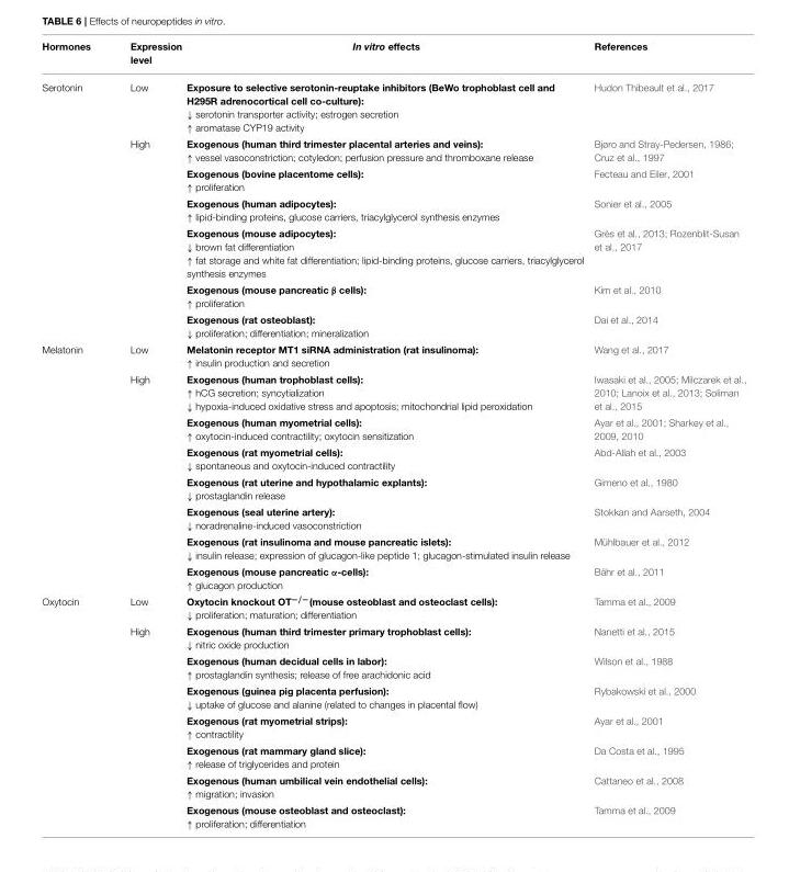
<table><thead><tr><td>Hormones</td><td>Expression level</td><td>In vitro effects</td><td>References</td></tr></thead><tbody><tr><td rowspan="7">Serotonin</td><td>Low</td><td>Exposure to selective serotonin-reuptake inhibitors (BeWo trophoblast cell and H295R adrenocortical cell co-culture): ↓ serotonin transporter activity; estrogen secretion ↑ aromatase CYP19 activity</td><td>Hudon Thibeault et al., 2017</td></tr><tr><td>High</td><td>Exogenous (human third trimester placental arteries and veins): ↑ vessel vasoconstriction; cotyledon; perfusion pressure and thromboxane release</td><td>Bjøro and Stray-Pedersen, 1986; Cruz et al., 1997</td></tr><tr><td></td><td>Exogenous (bovine placentome cells): ↑ proliferation</td><td>Fecteau and Eiler, 2001</td></tr><tr><td></td><td>Exogenous (human adipocytes): ↑ lipid-binding proteins, glucose carriers, triacylglycerol synthesis enzymes</td><td>Sonier et al., 2005</td></tr><tr><td></td><td>Exogenous (mouse adipocytes): ↓ brown fat differentiation ↑ fat storage and white fat differentiation; lipid-binding proteins, glucose carriers, triacylglycerol synthesis enzymes</td><td>Grès et al., 2013; Rozenblit-Susan et al., 2017</td></tr><tr><td></td><td>Exogenous (mouse pancreatic β cells): ↑ proliferation</td><td>Kim et al., 2010</td></tr><tr><td></td><td>Exogenous (rat osteoblast): ↓ proliferation; differentiation; mineralization</td><td>Dai et al., 2014</td></tr><tr><td rowspan="8">Melatonin</td><td>Low</td><td>Melatonin receptor MT1 siRNA administration (rat insulinoma): ↑ insulin production and secretion</td><td>Wang et al., 2017</td></tr><tr><td>High</td><td>Exogenous (human trophoblast cells): ↑ hCG secretion; syncytialization ↓ hypoxia-induced oxidative stress and apoptosis; mitochondrial lipid peroxidation</td><td>Iwasaki et al., 2005; Milczarek et al., 2010; Lanoix et al., 2013; Soliman et al., 2015</td></tr><tr><td></td><td>Exogenous (human myometrial cells): ↑ oxytocin-induced contractility; oxytocin sensitization</td><td>Ayar et al., 2001; Sharkey et al., 2009, 2010</td></tr><tr><td></td><td>Exogenous (rat myometrial cells): ↓ spontaneous and oxytocin-induced contractility</td><td>Abd-Allah et al., 2003</td></tr><tr><td></td><td>Exogenous (rat uterine and hypothalamic explants): ↓ prostaglandin release</td><td>Gimeno et al., 1980</td></tr><tr><td></td><td>Exogenous (seal uterine artery): ↓ noradrenaline-induced vasoconstriction</td><td>Stokkan and Aarseth, 2004</td></tr><tr><td></td><td>Exogenous (rat insulinoma and mouse pancreatic islets): ↓ insulin release; expression of glucagon-like peptide 1; glucagon-stimulated insulin release</td><td>Mühlbauer et al., 2012</td></tr><tr><td></td><td>Exogenous (mouse pancreatic α-cells): ↑ glucagon production</td><td>Bähr et al., 2011</td></tr><tr><td rowspan="8">Oxytocin</td><td>Low</td><td>Oxytocin knockout OT<sup>−/−</sup>(mouse osteoblast and osteoclast cells): ↓ proliferation; maturation; differentiation</td><td>Tamma et al., 2009</td></tr><tr><td>High</td><td>Exogenous (human third trimester primary trophoblast cells): ↓ nitric oxide production</td><td>Nanetti et al., 2015</td></tr><tr><td></td><td>Exogenous (human decidual cells in labor): ↑ prostaglandin synthesis; release of free arachidonic acid</td><td>Wilson et al., 1988</td></tr><tr><td></td><td>Exogenous (guinea pig placenta perfusion): ↓ uptake of glucose and alanine (related to changes in placental flow)</td><td>Rybakowski et al., 2000</td></tr><tr><td></td><td>Exogenous (rat myometrial strips): ↑ contractility</td><td>Ayar et al., 2001</td></tr><tr><td></td><td>Exogenous (rat mammary gland slice): ↑ release of triglycerides and protein</td><td>Da Costa et al., 1995</td></tr><tr><td></td><td>Exogenous (human umbilical vein endothelial cells): ↑ migration; invasion</td><td>Cattaneo et al., 2008</td></tr><tr><td></td><td>Exogenous (mouse osteoblast and osteoclast): ↑ proliferation; differentiation</td><td>Tamma et al., 2009</td></tr></tbody></table>